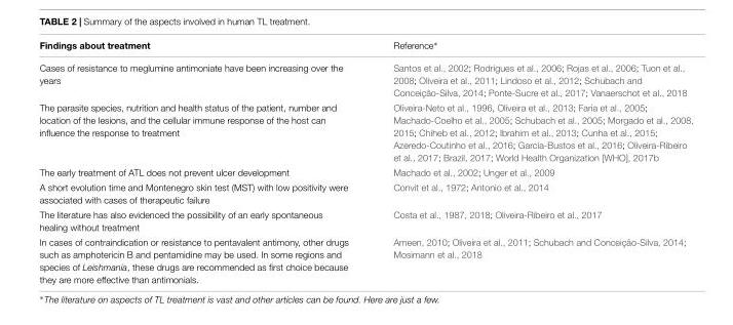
<table><thead><tr><td>Findings about treatment</td><td>Reference∗</td></tr></thead><tbody><tr><td>Cases of resistance to meglumine antimoniate have been increasing over the years</td><td>Santos et al., 2002; Rodrigues et al., 2006; Rojas et al., 2006; Tuon et al., 2008; Oliveira et al., 2011; Lindoso et al., 2012; Schubach and Conceição-Silva, 2014; Ponte-Sucre et al., 2017; Vanaerschot et al., 2018</td></tr><tr><td>The parasite species, nutrition and health status of the patient, number and location of the lesions, and the cellular immune response of the host can influence the response to treatment</td><td>Oliveira-Neto et al., 1996, Oliveira et al., 2013; Faria et al., 2005; Machado-Coelho et al., 2005; Schubach et al., 2005; Morgado et al., 2008, 2015; Chiheb et al., 2012; Ibrahim et al., 2013; Cunha et al., 2015; Azeredo-Coutinho et al., 2016; García-Bustos et al., 2016; Oliveira-Ribeiro et al., 2017; Brazil, 2017; World Health Organization [WHO], 2017b</td></tr><tr><td>The early treatment of ATL does not prevent ulcer development</td><td>Machado et al., 2002; Unger et al., 2009</td></tr><tr><td>A short evolution time and Montenegro skin test (MST) with low positivity were associated with cases of therapeutic failure</td><td>Convit et al., 1972; Antonio et al., 2014</td></tr><tr><td>The literature has also evidenced the possibility of an early spontaneous healing without treatment</td><td>Costa et al., 1987, 2018; Oliveira-Ribeiro et al., 2017</td></tr><tr><td>In cases of contraindication or resistance to pentavalent antimony, other drugs such as amphotericin B and pentamidine may be used. In some regions and species of Leishmania, these drugs are recommended as first choice because they are more effective than antimonials.</td><td>Ameen, 2010; Oliveira et al., 2011; Schubach and Conceição-Silva, 2014; Mosimann et al., 2018</td></tr></tbody></table>